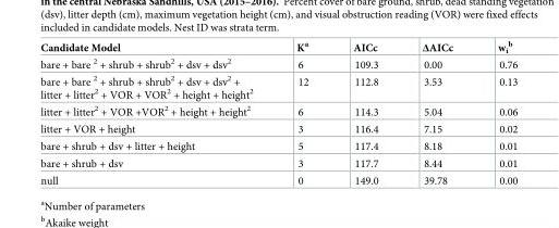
<table><thead><tr><td>Candidate Model</td><td>K<sup>a</sup></td><td>AICc</td><td>ΔAICc</td><td>w<sub>i</sub> <sup>b</sup></td></tr></thead><tbody><tr><td>bare + bare <sup>2</sup> + shrub + shrub<sup>2</sup> + dsv + dsv<sup>2</sup></td><td>6</td><td>109.3</td><td>0.00</td><td>0.76</td></tr><tr><td>bare + bare <sup>2</sup> + shrub + shrub<sup>2</sup> + dsv + dsv<sup>2</sup> + litter + litter<sup>2</sup> + VOR + VOR<sup>2</sup> + height + height<sup>2</sup></td><td>12</td><td>112.8</td><td>3.53</td><td>0.13</td></tr><tr><td>litter + litter<sup>2</sup> + VOR +VOR<sup>2</sup> + height + height<sup>2</sup></td><td>6</td><td>114.3</td><td>5.04</td><td>0.06</td></tr><tr><td>litter + VOR + height</td><td>3</td><td>116.4</td><td>7.15</td><td>0.02</td></tr><tr><td>bare + shrub + dsv + litter + height</td><td>5</td><td>117.4</td><td>8.18</td><td>0.01</td></tr><tr><td>bare + shrub + dsv</td><td>3</td><td>117.7</td><td>8.44</td><td>0.01</td></tr><tr><td>null</td><td>0</td><td>149.0</td><td>39.78</td><td>0.00</td></tr></tbody></table>